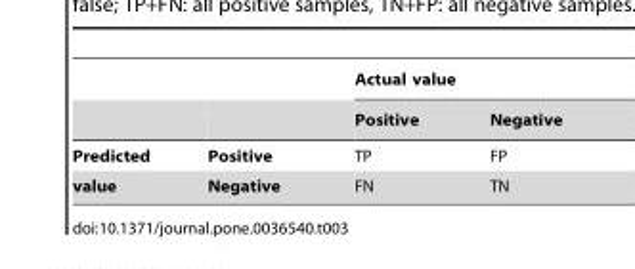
<table><thead><tr><td rowspan="2"></td><td rowspan="2"></td><td colspan="2">Actual value</td></tr><tr><td>Positive</td><td>Negative</td></tr></thead><tbody><tr><td>Predicted</td><td>Positive</td><td>TP</td><td>FP</td></tr><tr><td>value</td><td>Negative</td><td>FN</td><td>TN</td></tr></tbody></table>